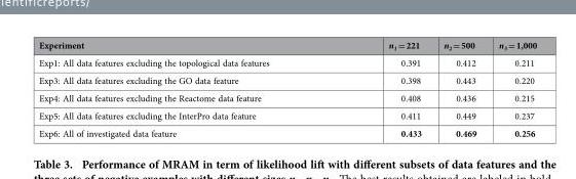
<table><thead><tr><td>Experiment</td><td>n<sub>1</sub> = 221</td><td>n<sub>2</sub> = 500</td><td>n<sub>3</sub> = 1,000</td></tr></thead><tbody><tr><td>Exp1: All data features excluding the topological data features</td><td>0.391</td><td>0.412</td><td>0.211</td></tr><tr><td>Exp3: All data features excluding the GO data feature</td><td>0.398</td><td>0.443</td><td>0.220</td></tr><tr><td>Exp4: All data features excluding the Reactome data feature</td><td>0.408</td><td>0.436</td><td>0.215</td></tr><tr><td>Exp5: All data features excluding the InterPro data feature</td><td>0.411</td><td>0.449</td><td>0.237</td></tr><tr><td>Exp6: All of investigated data feature</td><td>0.433</td><td>0.469</td><td>0.256</td></tr></tbody></table>